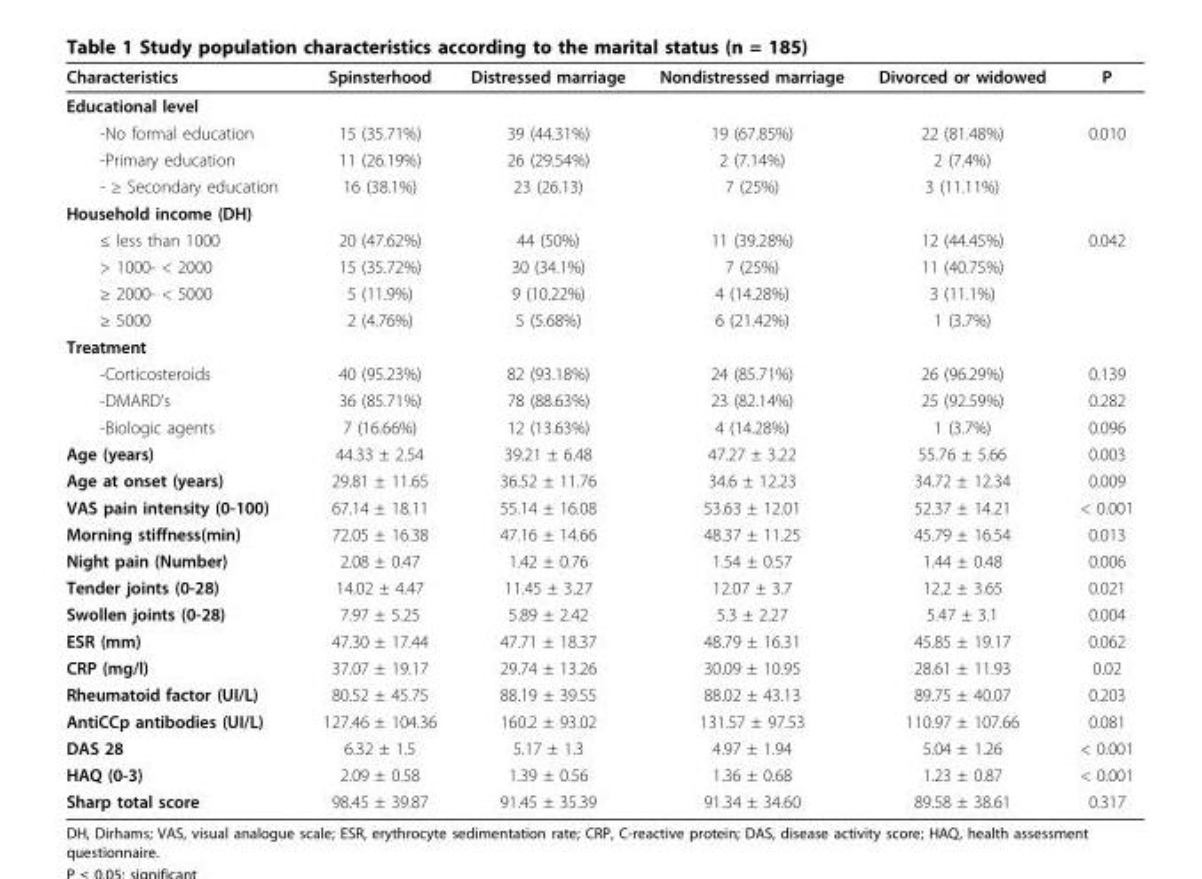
<table><thead><tr><td>Characteristics</td><td>Spinsterhood</td><td>Distressed marriage</td><td>Nondistressed marriage</td><td>Divorced or widowed</td><td>P</td></tr></thead><tbody><tr><td colspan="6">Educational level</td></tr><tr><td>-No formal education</td><td>15 (35.71%)</td><td>39 (44.31%)</td><td>19 (67.85%)</td><td>22 (81.48%)</td><td>0.010</td></tr><tr><td>-Primary education</td><td>11 (26.19%)</td><td>26 (29.54%)</td><td>2 (7.14%)</td><td>2 (7.4%)</td><td></td></tr><tr><td>- ≥ Secondary education</td><td>16 (38.1%)</td><td>23 (26.13)</td><td>7 (25%)</td><td>3 (11.11%)</td><td></td></tr><tr><td colspan="6">Household income (DH)</td></tr><tr><td>≤ less than 1000</td><td>20 (47.62%)</td><td>44 (50%)</td><td>11 (39.28%)</td><td>12 (44.45%)</td><td>0.042</td></tr><tr><td>&gt; 1000- &lt; 2000</td><td>15 (35.72%)</td><td>30 (34.1%)</td><td>7 (25%)</td><td>11 (40.75%)</td><td></td></tr><tr><td>≥ 2000- &lt; 5000</td><td>5 (11.9%)</td><td>9 (10.22%)</td><td>4 (14.28%)</td><td>3 (11.1%)</td><td></td></tr><tr><td>≥ 5000</td><td>2 (4.76%)</td><td>5 (5.68%)</td><td>6 (21.42%)</td><td>1 (3.7%)</td><td></td></tr><tr><td colspan="6">Treatment</td></tr><tr><td>-Corticosteroids</td><td>40 (95.23%)</td><td>82 (93.18%)</td><td>24 (85.71%)</td><td>26 (96.29%)</td><td>0.139</td></tr><tr><td>-DMARD’s</td><td>36 (85.71%)</td><td>78 (88.63%)</td><td>23 (82.14%)</td><td>25 (92.59%)</td><td>0.282</td></tr><tr><td>-Biologic agents</td><td>7 (16.66%)</td><td>12 (13.63%)</td><td>4 (14.28%)</td><td>1 (3.7%)</td><td>0.096</td></tr><tr><td>Age (years)</td><td>44.33 ± 2.54</td><td>39.21 ± 6.48</td><td>47.27 ± 3.22</td><td>55.76 ± 5.66</td><td>0.003</td></tr><tr><td>Age at onset (years)</td><td>29.81 ± 11.65</td><td>36.52 ± 11.76</td><td>34.6 ± 12.23</td><td>34.72 ± 12.34</td><td>0.009</td></tr><tr><td>VAS pain intensity (0-100)</td><td>67.14 ± 18.11</td><td>55.14 ± 16.08</td><td>53.63 ± 12.01</td><td>52.37 ± 14.21</td><td>&lt; 0.001</td></tr><tr><td>Morning stiffness(min)</td><td>72.05 ± 16.38</td><td>47.16 ± 14.66</td><td>48.37 ± 11.25</td><td>45.79 ± 16.54</td><td>0.013</td></tr><tr><td>Night pain (Number)</td><td>2.08 ± 0.47</td><td>1.42 ± 0.76</td><td>1.54 ± 0.57</td><td>1.44 ± 0.48</td><td>0.006</td></tr><tr><td>Tender joints (0-28)</td><td>14.02 ± 4.47</td><td>11.45 ± 3.27</td><td>12.07 ± 3.7</td><td>12.2 ± 3.65</td><td>0.021</td></tr><tr><td>Swollen joints (0-28)</td><td>7.97 ± 5.25</td><td>5.89 ± 2.42</td><td>5.3 ± 2.27</td><td>5.47 ± 3.1</td><td>0.004</td></tr><tr><td>ESR (mm)</td><td>47.30 ± 17.44</td><td>47.71 ± 18.37</td><td>48.79 ± 16.31</td><td>45.85 ± 19.17</td><td>0.062</td></tr><tr><td>CRP (mg/l)</td><td>37.07 ± 19.17</td><td>29.74 ± 13.26</td><td>30.09 ± 10.95</td><td>28.61 ± 11.93</td><td>0.02</td></tr><tr><td>Rheumatoid factor (UI/L)</td><td>80.52 ± 45.75</td><td>88.19 ± 39.55</td><td>88.02 ± 43.13</td><td>89.75 ± 40.07</td><td>0.203</td></tr><tr><td>AntiCCp antibodies (UI/L)</td><td>127.46 ± 104.36</td><td>160.2 ± 93.02</td><td>131.57 ± 97.53</td><td>110.97 ± 107.66</td><td>0.081</td></tr><tr><td>DAS 28</td><td>6.32 ± 1.5</td><td>5.17 ± 1.3</td><td>4.97 ± 1.94</td><td>5.04 ± 1.26</td><td>&lt; 0.001</td></tr><tr><td>HAQ (0-3)</td><td>2.09 ± 0.58</td><td>1.39 ± 0.56</td><td>1.36 ± 0.68</td><td>1.23 ± 0.87</td><td>&lt; 0.001</td></tr><tr><td>Sharp total score</td><td>98.45 ± 39.87</td><td>91.45 ± 35.39</td><td>91.34 ± 34.60</td><td>89.58 ± 38.61</td><td>0.317</td></tr></tbody></table>